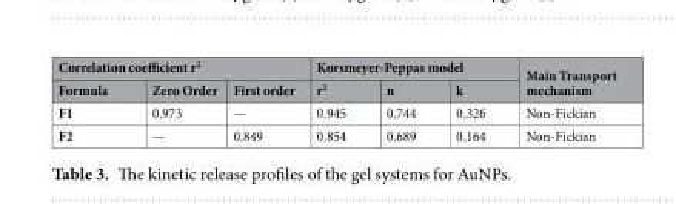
<table><thead><tr><td colspan="3">Correlation coefficient r<sup>2</sup></td><td colspan="3">Korsmeyer-Peppas model</td><td rowspan="2">Main Transport mechanism</td></tr><tr><td>Formula</td><td>Zero Order</td><td>First order</td><td>r<sup>2</sup></td><td>n</td><td>k</td></tr></thead><tbody><tr><td>F1</td><td>0.973</td><td>—</td><td>0.945</td><td>0.744</td><td>0.326</td><td>Non-Fickian</td></tr><tr><td>F2</td><td>—</td><td>0.849</td><td>0.854</td><td>0.689</td><td>0.164</td><td>Non-Fickian</td></tr></tbody></table>